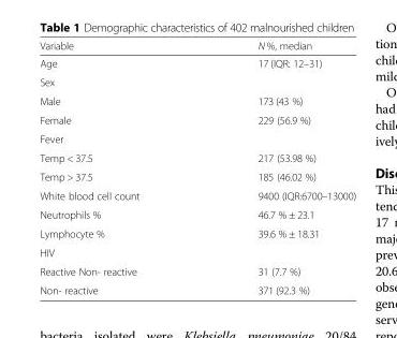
<table><thead><tr><td>Variable</td><td>N %, median</td></tr></thead><tbody><tr><td>Age</td><td>17 (IQR: 12–31)</td></tr><tr><td colspan="2">Sex</td></tr><tr><td>Male</td><td>173 (43 %)</td></tr><tr><td>Female</td><td>229 (56.9 %)</td></tr><tr><td colspan="2">Fever</td></tr><tr><td>Temp &lt; 37.5</td><td>217 (53.98 %)</td></tr><tr><td>Temp &gt; 37.5</td><td>185 (46.02 %)</td></tr><tr><td>White blood cell count</td><td>9400 (IQR:6700–13000)</td></tr><tr><td>Neutrophils %</td><td>46.7 % ± 23.1</td></tr><tr><td>Lymphocyte %</td><td>39.6 % ± 18.31</td></tr><tr><td colspan="2">HIV</td></tr><tr><td>Reactive Non- reactive</td><td>31 (7.7 %)</td></tr><tr><td>Non- reactive</td><td>371 (92.3 %)</td></tr></tbody></table>